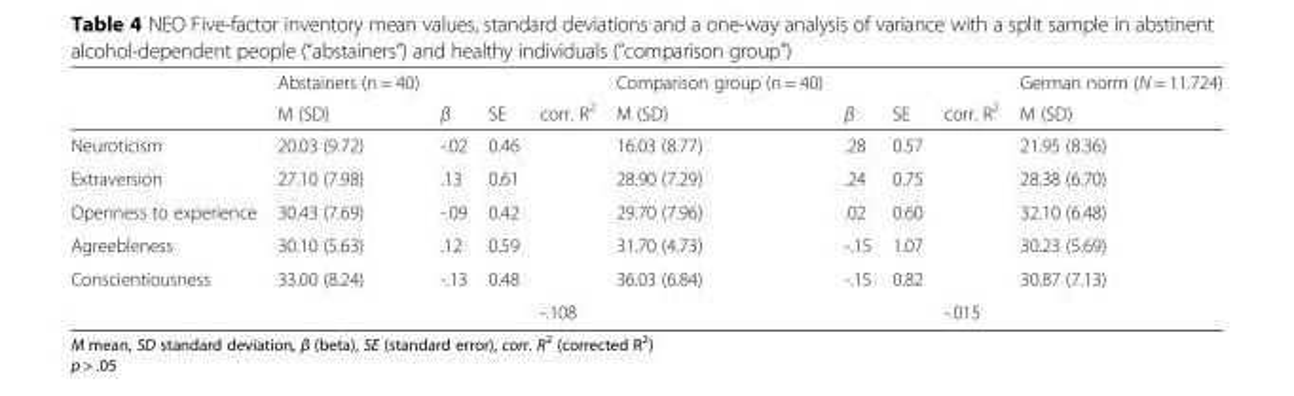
<table><thead><tr><td rowspan="2"></td><td rowspan="2">Abstainers (n = 40) M (SD)</td><td rowspan="2">β</td><td rowspan="2">SE</td><td rowspan="2">corr. R<sup>2</sup></td><td rowspan="2">Comparison group (n = 40) M (SD)</td><td rowspan="2">β</td><td rowspan="2">SE</td><td rowspan="2">corr. R<sup>2</sup></td><td rowspan="2">German norm (N = 11.724) M (SD)</td></tr><tr></tr></thead><tbody><tr><td>Neuroticism</td><td>20.03 (9.72)</td><td>-.02</td><td>0.46</td><td></td><td>16.03 (8.77)</td><td>.28</td><td>0.57</td><td></td><td>21.95 (8.36)</td></tr><tr><td>Extraversion</td><td>27.10 (7.98)</td><td>.13</td><td>0.61</td><td></td><td>28.90 (7.29)</td><td>.24</td><td>0.75</td><td></td><td>28.38 (6.70)</td></tr><tr><td>Openness to experience</td><td>30.43 (7.69)</td><td>-.09</td><td>0.42</td><td></td><td>29.70 (7.96)</td><td>.02</td><td>0.60</td><td></td><td>32.10 (6.48)</td></tr><tr><td>Agreebleness</td><td>30.10 (5.63)</td><td>.12</td><td>0.59</td><td></td><td>31.70 (4.73)</td><td>-.15</td><td>1.07</td><td></td><td>30.23 (5.69)</td></tr><tr><td rowspan="2">Conscientiousness</td><td>33.00 (8.24)</td><td>-.13</td><td>0.48</td><td></td><td>36.03 (6.84)</td><td>-.15</td><td>0.82</td><td></td><td>30.87 (7.13)</td></tr><tr><td></td><td></td><td></td><td>-.108</td><td></td><td></td><td></td><td>-.015</td><td></td></tr></tbody></table>